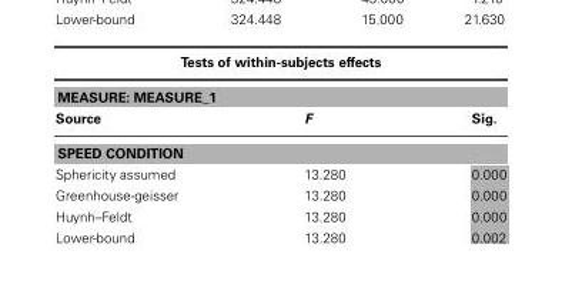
<table><thead><tr><td rowspan="2" colspan="3">Tests of within-subjects effects MEASURE: MEASURE_1</td></tr><tr></tr><tr><td>Source</td><td>F</td><td>Sig.</td></tr></thead><tbody><tr><td colspan="3">SPEED CONDITION</td></tr><tr><td>Sphericity assumed</td><td>13.280</td><td>0.000</td></tr><tr><td>Greenhouse-geisser</td><td>13.280</td><td>0.000</td></tr><tr><td>Huynh–Feldt</td><td>13.280</td><td>0.000</td></tr><tr><td>Lower-bound</td><td>13.280</td><td>0.002</td></tr></tbody></table>